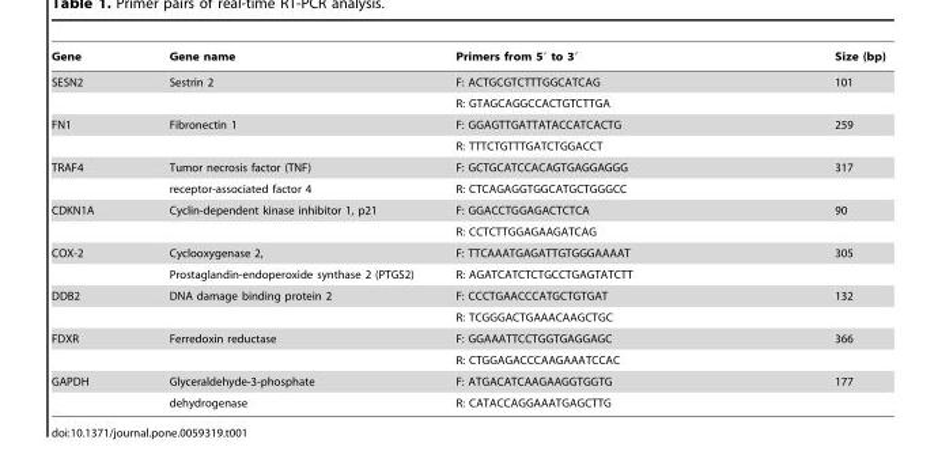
<table><thead><tr><td>Gene</td><td>Gene name</td><td>Primers from 5′ to 3′</td><td>Size (bp)</td></tr></thead><tbody><tr><td rowspan="2">SESN2</td><td>Sestrin 2</td><td>F: ACTGCGTCTTTGGCATCAG</td><td>101</td></tr><tr><td></td><td>R: GTAGCAGGCCACTGTCTTGA</td><td></td></tr><tr><td rowspan="2">FN1</td><td>Fibronectin 1</td><td>F: GGAGTTGATTATACCATCACTG</td><td>259</td></tr><tr><td></td><td>R: TTTCTGTTTGATCTGGACCT</td><td></td></tr><tr><td rowspan="2">TRAF4</td><td>Tumor necrosis factor (TNF)</td><td>F: GCTGCATCCACAGTGAGGAGGG</td><td>317</td></tr><tr><td>receptor-associated factor 4</td><td>R: CTCAGAGGTGGCATGCTGGGCC</td><td></td></tr><tr><td rowspan="2">CDKN1A</td><td>Cyclin-dependent kinase inhibitor 1, p21</td><td>F: GGACCTGGAGACTCTCA</td><td>90</td></tr><tr><td></td><td>R: CCTCTTGGAGAAGATCAG</td><td></td></tr><tr><td rowspan="2">COX-2</td><td>Cyclooxygenase 2,</td><td>F: TTCAAATGAGATTGTGGGAAAAT</td><td>305</td></tr><tr><td>Prostaglandin-endoperoxide synthase 2 (PTGS2)</td><td>R: AGATCATCTCTGCCTGAGTATCTT</td><td></td></tr><tr><td rowspan="2">DDB2</td><td>DNA damage binding protein 2</td><td>F: CCCTGAACCCATGCTGTGAT</td><td>132</td></tr><tr><td></td><td>R: TCGGGACTGAAACAAGCTGC</td><td></td></tr><tr><td rowspan="2">FDXR</td><td>Ferredoxin reductase</td><td>F: GGAAATTCCTGGTGAGGAGC</td><td>366</td></tr><tr><td></td><td>R: CTGGAGACCCAAGAAATCCAC</td><td></td></tr><tr><td rowspan="2">GAPDH</td><td>Glyceraldehyde-3-phosphate</td><td>F: ATGACATCAAGAAGGTGGTG</td><td>177</td></tr><tr><td>dehydrogenase</td><td>R: CATACCAGGAAATGAGCTTG</td><td></td></tr></tbody></table>